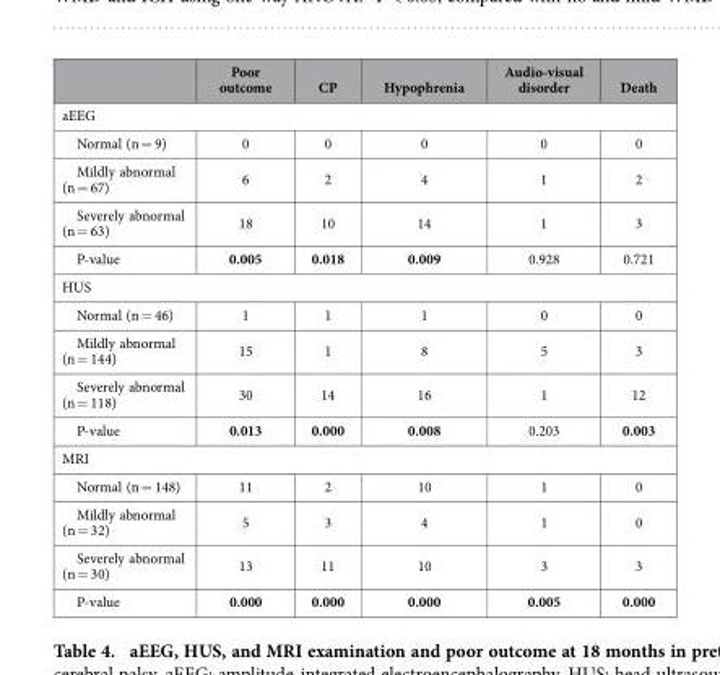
<table><thead><tr><td></td><td>Poor outcome</td><td>CP</td><td>Hypophrenia</td><td>Audio-visual disorder</td><td>Death</td></tr></thead><tbody><tr><td colspan="6">aEEG</td></tr><tr><td>Normal (n = 9)</td><td>0</td><td>0</td><td>0</td><td>0</td><td>0</td></tr><tr><td>Mildly abnormal (n = 67)</td><td>6</td><td>2</td><td>4</td><td>1</td><td>2</td></tr><tr><td>Severely abnormal (n = 63)</td><td>18</td><td>10</td><td>14</td><td>1</td><td>3</td></tr><tr><td>P-value</td><td>0.005</td><td>0.018</td><td>0.009</td><td>0.928</td><td>0.721</td></tr><tr><td colspan="6">HUS</td></tr><tr><td>Normal (n = 46)</td><td>1</td><td>1</td><td>1</td><td>0</td><td>0</td></tr><tr><td>Mildly abnormal (n = 144)</td><td>15</td><td>1</td><td>8</td><td>5</td><td>3</td></tr><tr><td>Severely abnormal (n = 118)</td><td>30</td><td>14</td><td>16</td><td>1</td><td>12</td></tr><tr><td>P-value</td><td>0.013</td><td>0.000</td><td>0.008</td><td>0.203</td><td>0.003</td></tr><tr><td colspan="6">MRI</td></tr><tr><td>Normal (n = 148)</td><td>11</td><td>2</td><td>10</td><td>1</td><td>0</td></tr><tr><td>Mildly abnormal (n = 32)</td><td>5</td><td>3</td><td>4</td><td>1</td><td>0</td></tr><tr><td>Severely abnormal (n = 30)</td><td>13</td><td>11</td><td>10</td><td>3</td><td>3</td></tr><tr><td>P-value</td><td>0.000</td><td>0.000</td><td>0.000</td><td>0.005</td><td>0.000</td></tr></tbody></table>